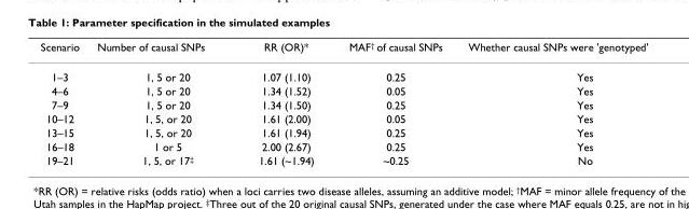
<table><thead><tr><td>Scenario</td><td>Number of causal SNPs</td><td>RR (OR)*</td><td>MAF<sup>†</sup> of causal SNPs</td><td>Whether causal SNPs were &#x27;genotyped&#x27;</td></tr></thead><tbody><tr><td>1–3</td><td>1, 5 or 20</td><td>1.07 (1.10)</td><td>0.25</td><td>Yes</td></tr><tr><td>4–6</td><td>1, 5 or 20</td><td>1.34 (1.52)</td><td>0.05</td><td>Yes</td></tr><tr><td>7–9</td><td>1, 5 or 20</td><td>1.34 (1.50)</td><td>0.25</td><td>Yes</td></tr><tr><td>10–12</td><td>1, 5, or 20</td><td>1.61 (2.00)</td><td>0.05</td><td>Yes</td></tr><tr><td>13–15</td><td>1, 5, or 20</td><td>1.61 (1.94)</td><td>0.25</td><td>Yes</td></tr><tr><td>16–18</td><td>1 or 5</td><td>2.00 (2.67)</td><td>0.25</td><td>Yes</td></tr><tr><td>19–21</td><td>1, 5, or 17<sup>‡</sup></td><td>1.61 (~1.94)</td><td>~0.25</td><td>No</td></tr></tbody></table>